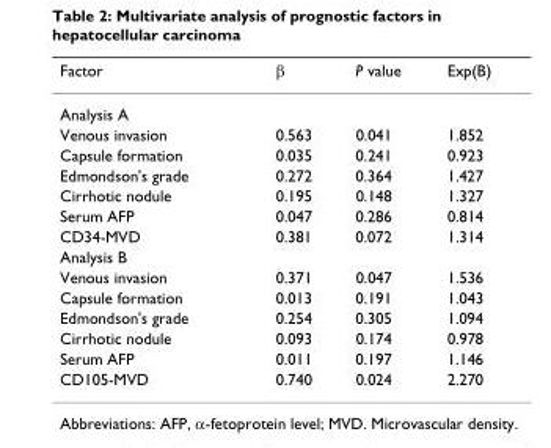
<table><thead><tr><td>Factor</td><td>β</td><td>P value</td><td>Exp(B)</td></tr></thead><tbody><tr><td colspan="4">Analysis A</td></tr><tr><td>Venous invasion</td><td>0.563</td><td>0.041</td><td>1.852</td></tr><tr><td>Capsule formation</td><td>0.035</td><td>0.241</td><td>0.923</td></tr><tr><td>Edmondson&#x27;s grade</td><td>0.272</td><td>0.364</td><td>1.427</td></tr><tr><td>Cirrhotic nodule</td><td>0.195</td><td>0.148</td><td>1.327</td></tr><tr><td>Serum AFP</td><td>0.047</td><td>0.286</td><td>0.814</td></tr><tr><td>CD34-MVD</td><td>0.381</td><td>0.072</td><td>1.314</td></tr><tr><td colspan="4">Analysis B</td></tr><tr><td>Venous invasion</td><td>0.371</td><td>0.047</td><td>1.536</td></tr><tr><td>Capsule formation</td><td>0.013</td><td>0.191</td><td>1.043</td></tr><tr><td>Edmondson&#x27;s grade</td><td>0.254</td><td>0.305</td><td>1.094</td></tr><tr><td>Cirrhotic nodule</td><td>0.093</td><td>0.174</td><td>0.978</td></tr><tr><td>Serum AFP</td><td>0.011</td><td>0.197</td><td>1.146</td></tr><tr><td>CD105-MVD</td><td>0.740</td><td>0.024</td><td>2.270</td></tr></tbody></table>